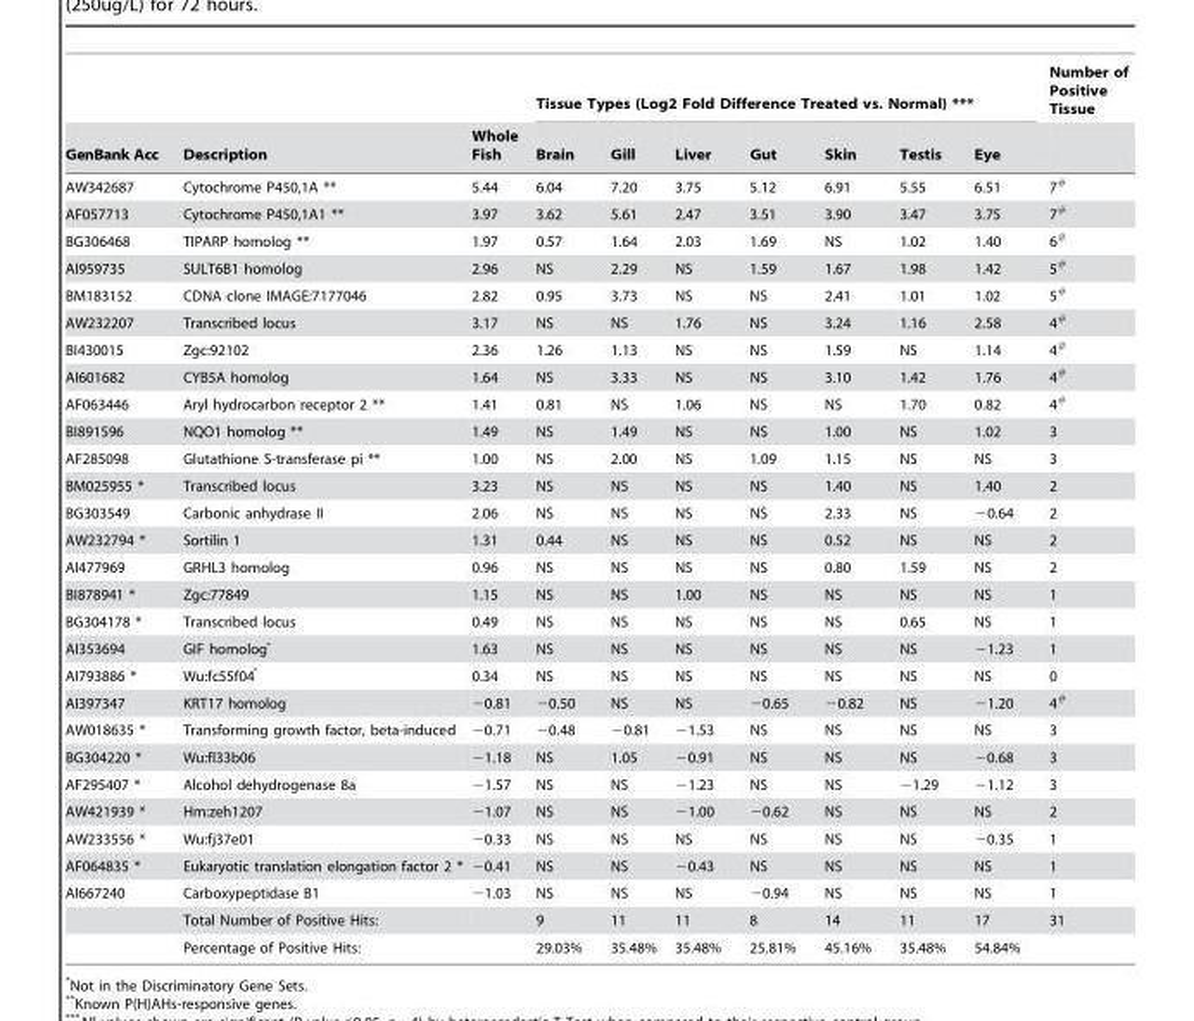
<table><thead><tr><td rowspan="2">GenBank Acc</td><td rowspan="2">Description</td><td rowspan="2">Whole Fish</td><td colspan="7">Tissue Types (Log2 Fold Difference Treated vs. Normal) ***</td><td rowspan="2">Number of Positive Tissue</td></tr><tr><td>Brain</td><td>Gill</td><td>Liver</td><td>Gut</td><td>Skin</td><td>Testis</td><td>Eye</td></tr></thead><tbody><tr><td>AW342687</td><td>Cytochrome P450,1A **</td><td>5.44</td><td>6.04</td><td>7.20</td><td>3.75</td><td>5.12</td><td>6.91</td><td>5.55</td><td>6.51</td><td>7#</td></tr><tr><td>AF057713</td><td>Cytochrome P450,1A1 **</td><td>3.97</td><td>3.62</td><td>5.61</td><td>2.47</td><td>3.51</td><td>3.90</td><td>3.47</td><td>3.75</td><td>7#</td></tr><tr><td>BG306468</td><td>TIPARP homolog **</td><td>1.97</td><td>0.57</td><td>1.64</td><td>2.03</td><td>1.69</td><td>NS</td><td>1.02</td><td>1.40</td><td>6#</td></tr><tr><td>AI959735</td><td>SULT6B1 homolog</td><td>2.96</td><td>NS</td><td>2.29</td><td>NS</td><td>1.59</td><td>1.67</td><td>1.98</td><td>1.42</td><td>5#</td></tr><tr><td>BM183152</td><td>CDNA clone IMAGE:7177046</td><td>2.82</td><td>0.95</td><td>3.73</td><td>NS</td><td>NS</td><td>2.41</td><td>1.01</td><td>1.02</td><td>5#</td></tr><tr><td>AW232207</td><td>Transcribed locus</td><td>3.17</td><td>NS</td><td>NS</td><td>1.76</td><td>NS</td><td>3.24</td><td>1.16</td><td>2.58</td><td>4#</td></tr><tr><td>BI430015</td><td>Zgc:92102</td><td>2.36</td><td>1.26</td><td>1.13</td><td>NS</td><td>NS</td><td>1.59</td><td>NS</td><td>1.14</td><td>4#</td></tr><tr><td>AI601682</td><td>CYB5A homolog</td><td>1.64</td><td>NS</td><td>3.33</td><td>NS</td><td>NS</td><td>3.10</td><td>1.42</td><td>1.76</td><td>4#</td></tr><tr><td>AF063446</td><td>Aryl hydrocarbon receptor 2 **</td><td>1.41</td><td>0.81</td><td>NS</td><td>1.06</td><td>NS</td><td>NS</td><td>1.70</td><td>0.82</td><td>4#</td></tr><tr><td>BI891596</td><td>NQO1 homolog **</td><td>1.49</td><td>NS</td><td>1.49</td><td>NS</td><td>NS</td><td>1.00</td><td>NS</td><td>1.02</td><td>3</td></tr><tr><td>AF285098</td><td>Glutathione S-transferase pi **</td><td>1.00</td><td>NS</td><td>2.00</td><td>NS</td><td>1.09</td><td>1.15</td><td>NS</td><td>NS</td><td>3</td></tr><tr><td>BM025955 *</td><td>Transcribed locus</td><td>3.23</td><td>NS</td><td>NS</td><td>NS</td><td>NS</td><td>1.40</td><td>NS</td><td>1.40</td><td>2</td></tr><tr><td>BG303549</td><td>Carbonic anhydrase II</td><td>2.06</td><td>NS</td><td>NS</td><td>NS</td><td>NS</td><td>2.33</td><td>NS</td><td>−0.64</td><td>2</td></tr><tr><td>AW232794 *</td><td>Sortilin 1</td><td>1.31</td><td>0.44</td><td>NS</td><td>NS</td><td>NS</td><td>0.52</td><td>NS</td><td>NS</td><td>2</td></tr><tr><td>AI477969</td><td>GRHL3 homolog</td><td>0.96</td><td>NS</td><td>NS</td><td>NS</td><td>NS</td><td>0.80</td><td>1.59</td><td>NS</td><td>2</td></tr><tr><td>BI878941 *</td><td>Zgc:77849</td><td>1.15</td><td>NS</td><td>NS</td><td>1.00</td><td>NS</td><td>NS</td><td>NS</td><td>NS</td><td>1</td></tr><tr><td>BG304178 *</td><td>Transcribed locus</td><td>0.49</td><td>NS</td><td>NS</td><td>NS</td><td>NS</td><td>NS</td><td>0.65</td><td>NS</td><td>1</td></tr><tr><td>AI353694</td><td>GIF homologˆ</td><td>1.63</td><td>NS</td><td>NS</td><td>NS</td><td>NS</td><td>NS</td><td>NS</td><td>−1.23</td><td>1</td></tr><tr><td>AI793886 *</td><td>Wu:fc55f04ˆ</td><td>0.34</td><td>NS</td><td>NS</td><td>NS</td><td>NS</td><td>NS</td><td>NS</td><td>NS</td><td>0</td></tr><tr><td>AI397347</td><td>KRT17 homolog</td><td>−0.81</td><td>−0.50</td><td>NS</td><td>NS</td><td>−0.65</td><td>−0.82</td><td>NS</td><td>−1.20</td><td>4#</td></tr><tr><td>AW018635 *</td><td>Transforming growth factor, beta-induced</td><td>−0.71</td><td>−0.48</td><td>−0.81</td><td>−1.53</td><td>NS</td><td>NS</td><td>NS</td><td>NS</td><td>3</td></tr><tr><td>BG304220 *</td><td>Wu:fl33b06</td><td>−1.18</td><td>NS</td><td>1.05</td><td>−0.91</td><td>NS</td><td>NS</td><td>NS</td><td>−0.68</td><td>3</td></tr><tr><td>AF295407 *</td><td>Alcohol dehydrogenase 8a</td><td>−1.57</td><td>NS</td><td>NS</td><td>−1.23</td><td>NS</td><td>NS</td><td>−1.29</td><td>−1.12</td><td>3</td></tr><tr><td>AW421939 *</td><td>Hm:zeh1207</td><td>−1.07</td><td>NS</td><td>NS</td><td>−1.00</td><td>−0.62</td><td>NS</td><td>NS</td><td>NS</td><td>2</td></tr><tr><td>AW233556 *</td><td>Wu:fj37e01</td><td>−0.33</td><td>NS</td><td>NS</td><td>NS</td><td>NS</td><td>NS</td><td>NS</td><td>−0.35</td><td>1</td></tr><tr><td>AF064835 *</td><td>Eukaryotic translation elongation factor 2 *</td><td>−0.41</td><td>NS</td><td>NS</td><td>−0.43</td><td>NS</td><td>NS</td><td>NS</td><td>NS</td><td>1</td></tr><tr><td rowspan="3">AI667240</td><td>Carboxypeptidase B1</td><td>−1.03</td><td>NS</td><td>NS</td><td>NS</td><td>−0.94</td><td>NS</td><td>NS</td><td>NS</td><td>1</td></tr><tr><td>Total Number of Positive Hits:</td><td></td><td>9</td><td>11</td><td>11</td><td>8</td><td>14</td><td>11</td><td>17</td><td>31</td></tr><tr><td>Percentage of Positive Hits:</td><td></td><td>29.03%</td><td>35.48%</td><td>35.48%</td><td>25.81%</td><td>45.16%</td><td>35.48%</td><td>54.84%</td><td></td></tr></tbody></table>